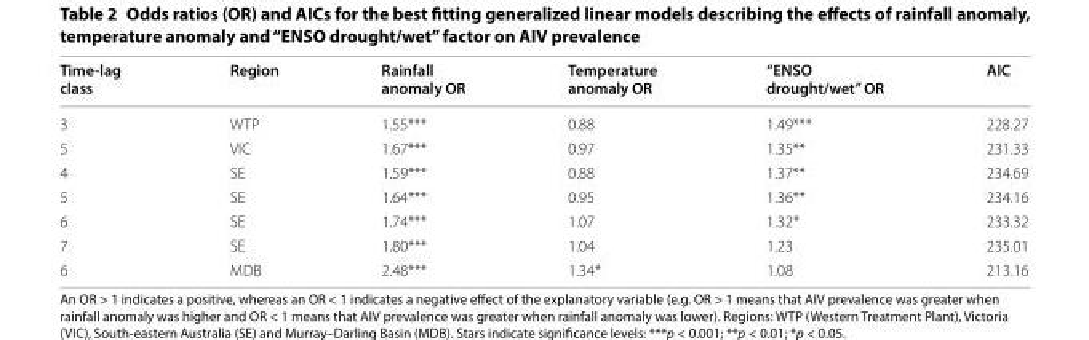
<table><thead><tr><td>Time-lag class</td><td>Region</td><td>Rainfall anomaly OR</td><td>Temperature anomaly OR</td><td>“ENSO drought/wet” OR</td><td>AIC</td></tr></thead><tbody><tr><td>3</td><td>WTP</td><td>1.55***</td><td>0.88</td><td>1.49***</td><td>228.27</td></tr><tr><td>5</td><td>VIC</td><td>1.67***</td><td>0.97</td><td>1.35**</td><td>231.33</td></tr><tr><td>4</td><td>SE</td><td>1.59***</td><td>0.88</td><td>1.37**</td><td>234.69</td></tr><tr><td>5</td><td>SE</td><td>1.64***</td><td>0.95</td><td>1.36**</td><td>234.16</td></tr><tr><td>6</td><td>SE</td><td>1.74***</td><td>1.07</td><td>1.32*</td><td>233.32</td></tr><tr><td>7</td><td>SE</td><td>1.80***</td><td>1.04</td><td>1.23</td><td>235.01</td></tr><tr><td>6</td><td>MDB</td><td>2.48***</td><td>1.34*</td><td>1.08</td><td>213.16</td></tr></tbody></table>